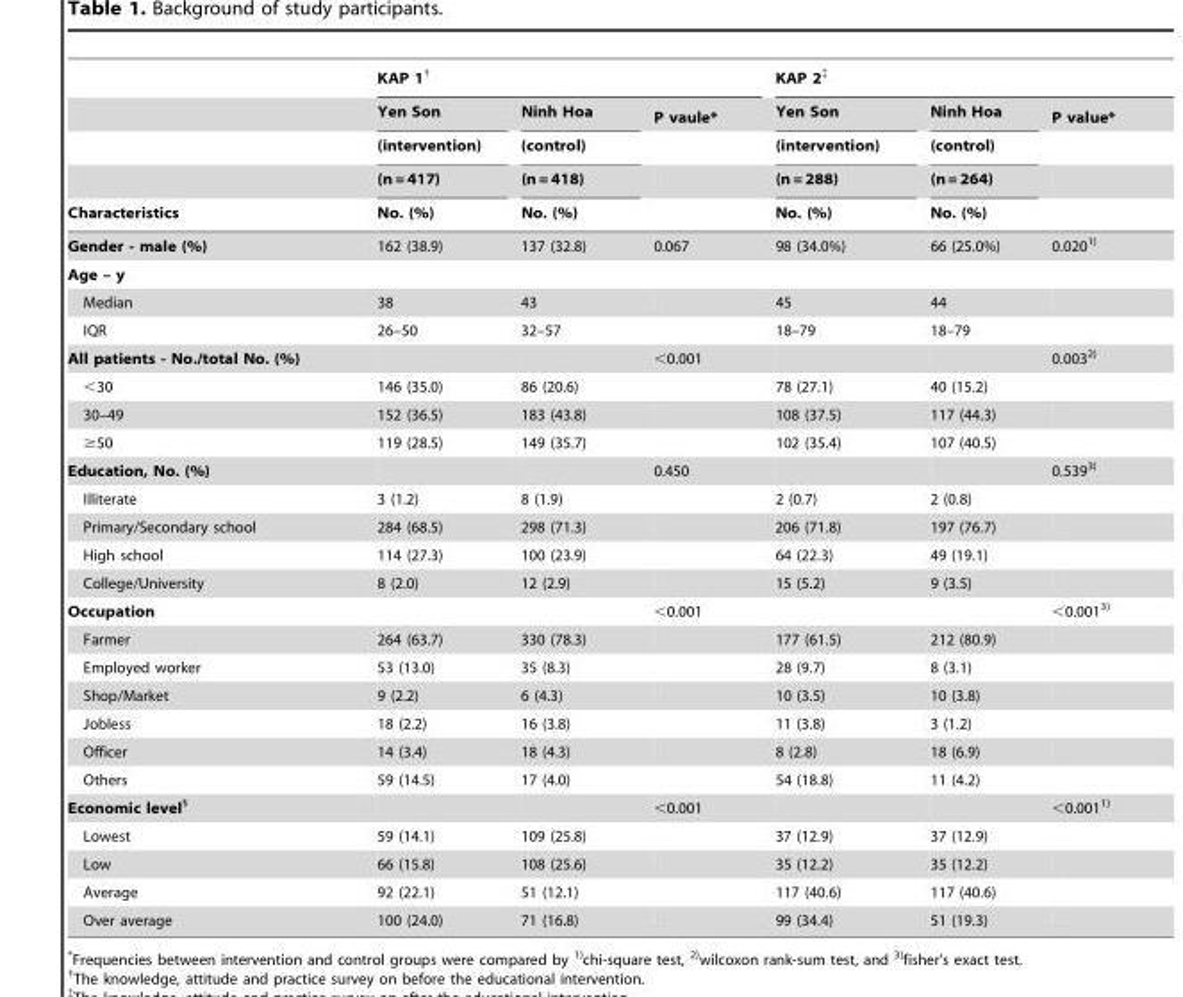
<table><thead><tr><td rowspan="5">Characteristics</td><td colspan="3">KAP 1†</td><td colspan="3">KAP 2‡</td></tr><tr><td rowspan="4">Yen Son (intervention) (n = 417) No. (%)</td><td rowspan="4">Ninh Hoa (control) (n = 418) No. (%)</td><td rowspan="4">P vaule*</td><td rowspan="4">Yen Son (intervention) (n = 288) No. (%)</td><td rowspan="4">Ninh Hoa (control) (n = 264) No. (%)</td><td rowspan="4">P value*</td></tr><tr></tr><tr></tr><tr></tr></thead><tbody><tr><td>Gender - male (%)</td><td>162 (38.9)</td><td>137 (32.8)</td><td>0.067</td><td>98 (34.0%)</td><td>66 (25.0%)</td><td>0.020<sup>1)</sup></td></tr><tr><td colspan="7">Age – y</td></tr><tr><td>Median</td><td>38</td><td>43</td><td></td><td>45</td><td>44</td><td></td></tr><tr><td>IQR</td><td>26–50</td><td>32–57</td><td></td><td>18–79</td><td>18–79</td><td></td></tr><tr><td>All patients - No./total No. (%)</td><td></td><td></td><td>&lt;0.001</td><td></td><td></td><td>0.003<sup>2)</sup></td></tr><tr><td>&lt;30</td><td>146 (35.0)</td><td>86 (20.6)</td><td></td><td>78 (27.1)</td><td>40 (15.2)</td><td></td></tr><tr><td>30–49</td><td>152 (36.5)</td><td>183 (43.8)</td><td></td><td>108 (37.5)</td><td>117 (44.3)</td><td></td></tr><tr><td>≥50</td><td>119 (28.5)</td><td>149 (35.7)</td><td></td><td>102 (35.4)</td><td>107 (40.5)</td><td></td></tr><tr><td>Education, No. (%)</td><td></td><td></td><td>0.450</td><td></td><td></td><td>0.539<sup>3)</sup></td></tr><tr><td>Illiterate</td><td>3 (1.2)</td><td>8 (1.9)</td><td></td><td>2 (0.7)</td><td>2 (0.8)</td><td></td></tr><tr><td>Primary/Secondary school</td><td>284 (68.5)</td><td>298 (71.3)</td><td></td><td>206 (71.8)</td><td>197 (76.7)</td><td></td></tr><tr><td>High school</td><td>114 (27.3)</td><td>100 (23.9)</td><td></td><td>64 (22.3)</td><td>49 (19.1)</td><td></td></tr><tr><td>College/University</td><td>8 (2.0)</td><td>12 (2.9)</td><td></td><td>15 (5.2)</td><td>9 (3.5)</td><td></td></tr><tr><td>Occupation</td><td></td><td></td><td>&lt;0.001</td><td></td><td></td><td>&lt;0.001<sup>3)</sup></td></tr><tr><td>Farmer</td><td>264 (63.7)</td><td>330 (78.3)</td><td></td><td>177 (61.5)</td><td>212 (80.9)</td><td></td></tr><tr><td>Employed worker</td><td>53 (13.0)</td><td>35 (8.3)</td><td></td><td>28 (9.7)</td><td>8 (3.1)</td><td></td></tr><tr><td>Shop/Market</td><td>9 (2.2)</td><td>6 (4.3)</td><td></td><td>10 (3.5)</td><td>10 (3.8)</td><td></td></tr><tr><td>Jobless</td><td>18 (2.2)</td><td>16 (3.8)</td><td></td><td>11 (3.8)</td><td>3 (1.2)</td><td></td></tr><tr><td>Officer</td><td>14 (3.4)</td><td>18 (4.3)</td><td></td><td>8 (2.8)</td><td>18 (6.9)</td><td></td></tr><tr><td>Others</td><td>59 (14.5)</td><td>17 (4.0)</td><td></td><td>54 (18.8)</td><td>11 (4.2)</td><td></td></tr><tr><td>Economic level§</td><td></td><td></td><td>&lt;0.001</td><td></td><td></td><td>&lt;0.001<sup>1)</sup></td></tr><tr><td>Lowest</td><td>59 (14.1)</td><td>109 (25.8)</td><td></td><td>37 (12.9)</td><td>37 (12.9)</td><td></td></tr><tr><td>Low</td><td>66 (15.8)</td><td>108 (25.6)</td><td></td><td>35 (12.2)</td><td>35 (12.2)</td><td></td></tr><tr><td>Average</td><td>92 (22.1)</td><td>51 (12.1)</td><td></td><td>117 (40.6)</td><td>117 (40.6)</td><td></td></tr><tr><td>Over average</td><td>100 (24.0)</td><td>71 (16.8)</td><td></td><td>99 (34.4)</td><td>51 (19.3)</td><td></td></tr></tbody></table>